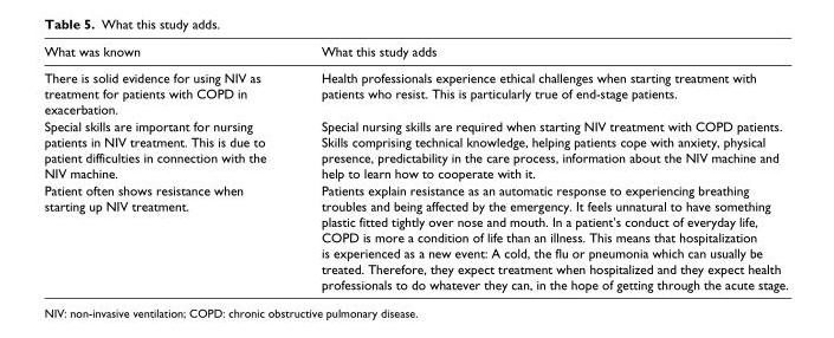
<table><thead><tr><td>What was known</td><td>What this study adds</td></tr></thead><tbody><tr><td>There is solid evidence for using NIV as treatment for patients with COPD in exacerbation.</td><td>Health professionals experience ethical challenges when starting treatment with patients who resist. This is particularly true of end-stage patients.</td></tr><tr><td>Special skills are important for nursing patients in NIV treatment. This is due to patient difficulties in connection with the NIV machine.</td><td>Special nursing skills are required when starting NIV treatment with COPD patients. Skills comprising technical knowledge, helping patients cope with anxiety, physical presence, predictability in the care process, information about the NIV machine and help to learn how to cooperate with it.</td></tr><tr><td>Patient often shows resistance when starting up NIV treatment.</td><td>Patients explain resistance as an automatic response to experiencing breathing troubles and being affected by the emergency. It feels unnatural to have something plastic fitted tightly over nose and mouth. In a patient’s conduct of everyday life, COPD is more a condition of life than an illness. This means that hospitalization is experienced as a new event: A cold, the flu or pneumonia which can usually be treated. Therefore, they expect treatment when hospitalized and they expect health professionals to do whatever they can, in the hope of getting through the acute stage.</td></tr></tbody></table>